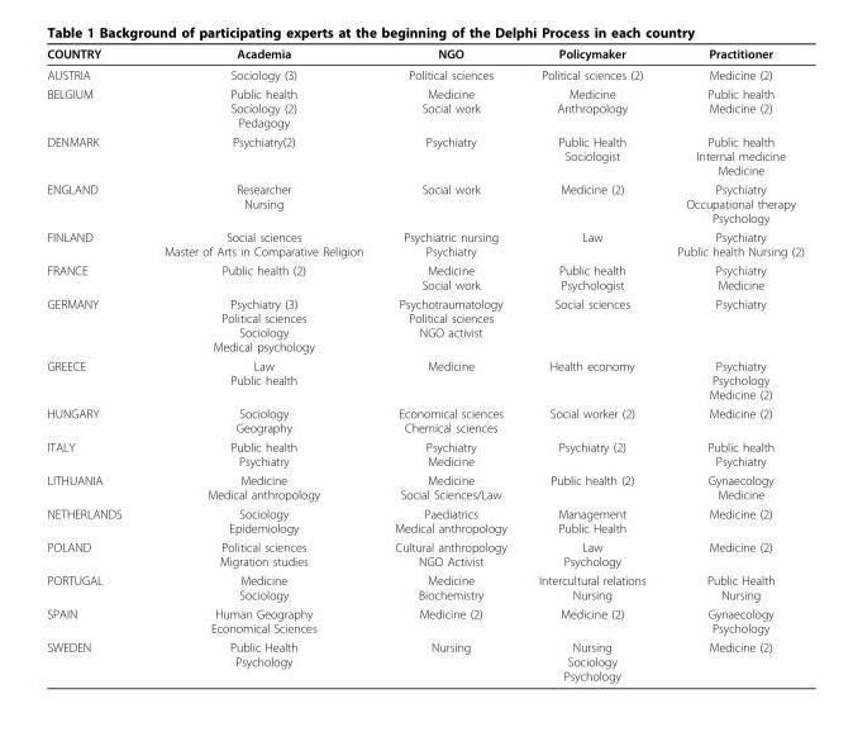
<table><thead><tr><td>COUNTRY</td><td>Academia</td><td>NGO</td><td>Policymaker</td><td>Practitioner</td></tr></thead><tbody><tr><td>AUSTRIA</td><td>Sociology (3)</td><td>Political sciences</td><td>Political sciences (2)</td><td>Medicine (2)</td></tr><tr><td>BELGIUM</td><td>Public health Sociology (2) Pedagogy</td><td>Medicine Social work</td><td>Medicine Anthropology</td><td>Public health Medicine (2)</td></tr><tr><td>DENMARK</td><td>Psychiatry(2)</td><td>Psychiatry</td><td>Public Health Sociologist</td><td>Public health Internal medicine Medicine</td></tr><tr><td>ENGLAND</td><td>Researcher Nursing</td><td>Social work</td><td>Medicine (2)</td><td>Psychiatry Occupational therapy Psychology</td></tr><tr><td>FINLAND</td><td>Social sciences Master of Arts in Comparative Religion</td><td>Psychiatric nursing Psychiatry</td><td>Law</td><td>Psychiatry Public health Nursing (2)</td></tr><tr><td>FRANCE</td><td>Public health (2)</td><td>Medicine Social work</td><td>Public health Psychologist</td><td>Psychiatry Medicine</td></tr><tr><td>GERMANY</td><td>Psychiatry (3) Political sciences Sociology Medical psychology</td><td>Psychotraumatology Political sciences NGO activist</td><td>Social sciences</td><td>Psychiatry</td></tr><tr><td>GREECE</td><td>Law Public health</td><td>Medicine</td><td>Health economy</td><td>Psychiatry Psychology Medicine (2)</td></tr><tr><td>HUNGARY</td><td>Sociology Geography</td><td>Economical sciences Chemical sciences</td><td>Social worker (2)</td><td>Medicine (2)</td></tr><tr><td>ITALY</td><td>Public health Psychiatry</td><td>Psychiatry Medicine</td><td>Psychiatry (2)</td><td>Public health Psychiatry</td></tr><tr><td>LITHUANIA</td><td>Medicine Medical anthropology</td><td>Medicine Social Sciences/Law</td><td>Public health (2)</td><td>Gynaecology Medicine</td></tr><tr><td>NETHERLANDS</td><td>Sociology Epidemiology</td><td>Paediatrics Medical anthropology</td><td>Management Public Health</td><td>Medicine (2)</td></tr><tr><td>POLAND</td><td>Political sciences Migration studies</td><td>Cultural anthropology NGO Activist</td><td>Law Psychology</td><td>Medicine (2)</td></tr><tr><td>PORTUGAL</td><td>Medicine Sociology</td><td>Medicine Biochemistry</td><td>Intercultural relations Nursing</td><td>Public Health Nursing</td></tr><tr><td>SPAIN</td><td>Human Geography Economical Sciences</td><td>Medicine (2)</td><td>Medicine (2)</td><td>Gynaecology Psychology</td></tr><tr><td>SWEDEN</td><td>Public Health Psychology</td><td>Nursing</td><td>Nursing Sociology Psychology</td><td>Medicine (2)</td></tr></tbody></table>